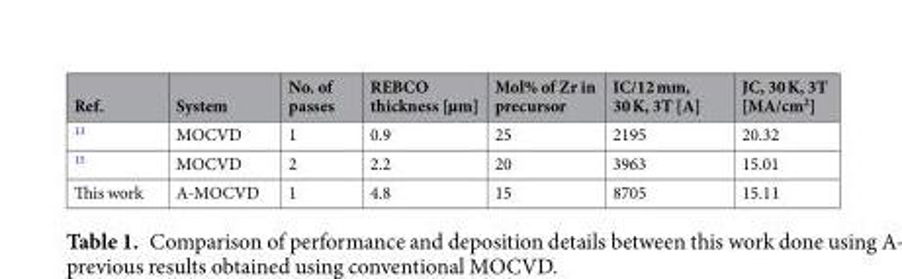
<table><thead><tr><td>Ref.</td><td>System</td><td>No. of passes</td><td>REBCO thickness [µm]</td><td>Mol% of Zr in precursor</td><td>IC/12 mm, 30 K, 3T [A]</td><td>JC, 30 K, 3T [MA/cm<sup>2</sup>]</td></tr></thead><tbody><tr><td><sup>13</sup></td><td>MOCVD</td><td>1</td><td>0.9</td><td>25</td><td>2195</td><td>20.32</td></tr><tr><td><sup>15</sup></td><td>MOCVD</td><td>2</td><td>2.2</td><td>20</td><td>3963</td><td>15.01</td></tr><tr><td>This work</td><td>A-MOCVD</td><td>1</td><td>4.8</td><td>15</td><td>8705</td><td>15.11</td></tr></tbody></table>